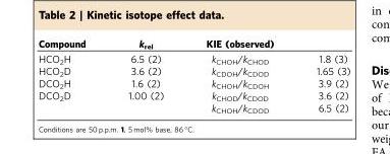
<table><thead><tr><td>Compound</td><td>k<sub>rel</sub></td><td>KIE (observed)</td><td></td></tr></thead><tbody><tr><td>HCO<sub>2</sub>H</td><td>6.5 (2)</td><td>k<sub>CHOH</sub>/k<sub>CHOD</sub></td><td>1.8 (3)</td></tr><tr><td>HCO<sub>2</sub>D</td><td>3.6 (2)</td><td>k<sub>CDOH</sub>/k<sub>CDOD</sub></td><td>1.65 (3)</td></tr><tr><td>DCO<sub>2</sub>H</td><td>1.6 (2)</td><td>k<sub>CHOH</sub>/k<sub>CDOH</sub></td><td>3.9 (2)</td></tr><tr><td rowspan="2">DCO<sub>2</sub>D</td><td>1.00 (2)</td><td>k<sub>CHOD</sub>/k<sub>CDOD</sub></td><td>3.6 (2)</td></tr><tr><td></td><td>k<sub>CHOH</sub>/k<sub>CDOD</sub></td><td>6.5 (2)</td></tr></tbody></table>